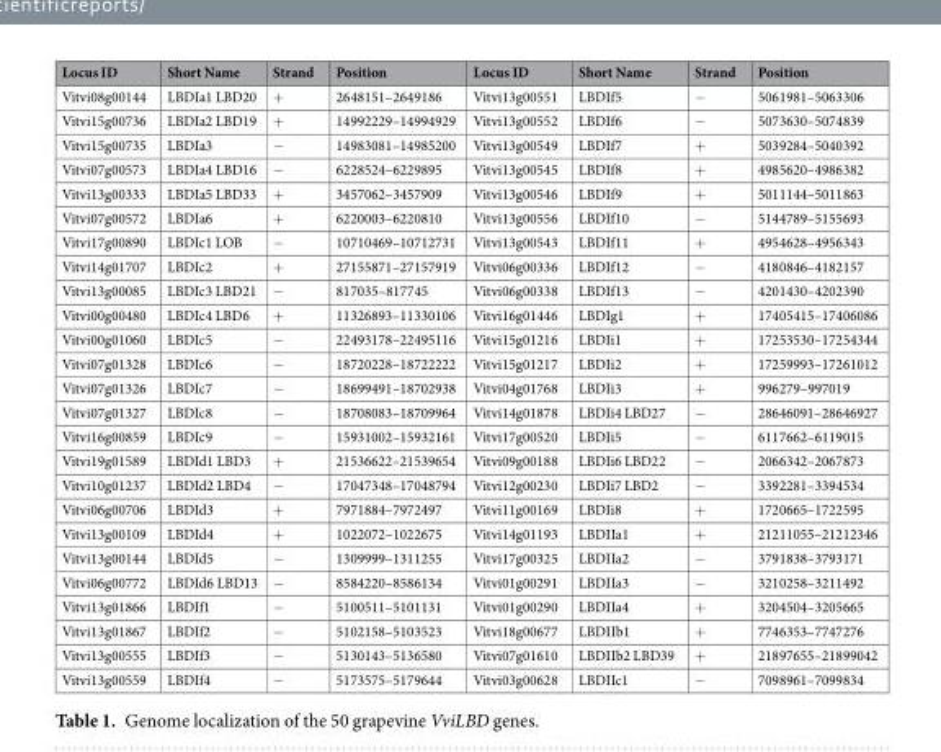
<table><thead><tr><td>Locus ID</td><td>Short Name</td><td>Strand</td><td>Position</td><td>Locus ID</td><td>Short Name</td><td>Strand</td><td>Position</td></tr></thead><tbody><tr><td>Vitvi08g00144</td><td>LBDIa1 LBD20</td><td>+</td><td>2648151–2649186</td><td>Vitvi13g00551</td><td>LBDIf5</td><td>−</td><td>5061981–5063306</td></tr><tr><td>Vitvi15g00736</td><td>LBDIa2 LBD19</td><td>+</td><td>14992229–14994929</td><td>Vitvi13g00552</td><td>LBDIf6</td><td>−</td><td>5073630–5074839</td></tr><tr><td>Vitvi15g00735</td><td>LBDIa3</td><td>−</td><td>14983081–14985200</td><td>Vitvi13g00549</td><td>LBDIf7</td><td>+</td><td>5039284–5040392</td></tr><tr><td>Vitvi07g00573</td><td>LBDIa4 LBD16</td><td>−</td><td>6228524–6229895</td><td>Vitvi13g00545</td><td>LBDIf8</td><td>+</td><td>4985620–4986382</td></tr><tr><td>Vitvi13g00333</td><td>LBDIa5 LBD33</td><td>+</td><td>3457062–3457909</td><td>Vitvi13g00546</td><td>LBDIf9</td><td>+</td><td>5011144–5011863</td></tr><tr><td>Vitvi07g00572</td><td>LBDIa6</td><td>+</td><td>6220003–6220810</td><td>Vitvi13g00556</td><td>LBDIf10</td><td>−</td><td>5144789–5155693</td></tr><tr><td>Vitvi17g00890</td><td>LBDIc1 LOB</td><td>−</td><td>10710469–10712731</td><td>Vitvi13g00543</td><td>LBDIf11</td><td>+</td><td>4954628–4956343</td></tr><tr><td>Vitvi14g01707</td><td>LBDIc2</td><td>+</td><td>27155871–27157919</td><td>Vitvi06g00336</td><td>LBDIf12</td><td>−</td><td>4180846–4182157</td></tr><tr><td>Vitvi13g00085</td><td>LBDIc3 LBD21</td><td>−</td><td>817035–817745</td><td>Vitvi06g00338</td><td>LBDIf13</td><td>−</td><td>4201430–4202390</td></tr><tr><td>Vitvi00g00480</td><td>LBDIc4 LBD6</td><td>+</td><td>11326893–11330106</td><td>Vitvi16g01446</td><td>LBDIg1</td><td>+</td><td>17405415–17406086</td></tr><tr><td>Vitvi00g01060</td><td>LBDIc5</td><td>−</td><td>22493178–22495116</td><td>Vitvi15g01216</td><td>LBDIi1</td><td>+</td><td>17253530–17254344</td></tr><tr><td>Vitvi07g01328</td><td>LBDIc6</td><td>−</td><td>18720228–18722222</td><td>Vitvi15g01217</td><td>LBDIi2</td><td>+</td><td>17259993–17261012</td></tr><tr><td>Vitvi07g01326</td><td>LBDIc7</td><td>−</td><td>18699491–18702938</td><td>Vitvi04g01768</td><td>LBDIi3</td><td>+</td><td>996279–997019</td></tr><tr><td>Vitvi07g01327</td><td>LBDIc8</td><td>−</td><td>18708083–18709964</td><td>Vitvi14g01878</td><td>LBDIi4 LBD27</td><td>−</td><td>28646091–28646927</td></tr><tr><td>Vitvi16g00859</td><td>LBDIc9</td><td>−</td><td>15931002–15932161</td><td>Vitvi17g00520</td><td>LBDIi5</td><td>−</td><td>6117662–6119015</td></tr><tr><td>Vitvi19g01589</td><td>LBDId1 LBD3</td><td>+</td><td>21536622–21539654</td><td>Vitvi09g00188</td><td>LBDIi6 LBD22</td><td>−</td><td>2066342–2067873</td></tr><tr><td>Vitvi10g01237</td><td>LBDId2 LBD4</td><td>−</td><td>17047348–17048794</td><td>Vitvi12g00230</td><td>LBDIi7 LBD2</td><td>−</td><td>3392281–3394534</td></tr><tr><td>Vitvi06g00706</td><td>LBDId3</td><td>+</td><td>7971884–7972497</td><td>Vitvi11g00169</td><td>LBDIi8</td><td>+</td><td>1720665–1722595</td></tr><tr><td>Vitvi13g00109</td><td>LBDId4</td><td>+</td><td>1022072–1022675</td><td>Vitvi14g01193</td><td>LBDIIa1</td><td>+</td><td>21211055–21212346</td></tr><tr><td>Vitvi13g00144</td><td>LBDId5</td><td>−</td><td>1309999–1311255</td><td>Vitvi17g00325</td><td>LBDIIa2</td><td>−</td><td>3791838–3793171</td></tr><tr><td>Vitvi06g00772</td><td>LBDId6 LBD13</td><td>−</td><td>8584220–8586134</td><td>Vitvi01g00291</td><td>LBDIIa3</td><td>−</td><td>3210258–3211492</td></tr><tr><td>Vitvi13g01866</td><td>LBDIf1</td><td>−</td><td>5100511–5101131</td><td>Vitvi01g00290</td><td>LBDIIa4</td><td>+</td><td>3204504–3205665</td></tr><tr><td>Vitvi13g01867</td><td>LBDIf2</td><td>−</td><td>5102158–5103523</td><td>Vitvi18g00677</td><td>LBDIIb1</td><td>+</td><td>7746353–7747276</td></tr><tr><td>Vitvi13g00555</td><td>LBDIf3</td><td>−</td><td>5130143–5136580</td><td>Vitvi07g01610</td><td>LBDIIb2 LBD39</td><td>+</td><td>21897655–21899042</td></tr><tr><td>Vitvi13g00559</td><td>LBDIf4</td><td>−</td><td>5173575–5179644</td><td>Vitvi03g00628</td><td>LBDIIc1</td><td>−</td><td>7098961–7099834</td></tr></tbody></table>